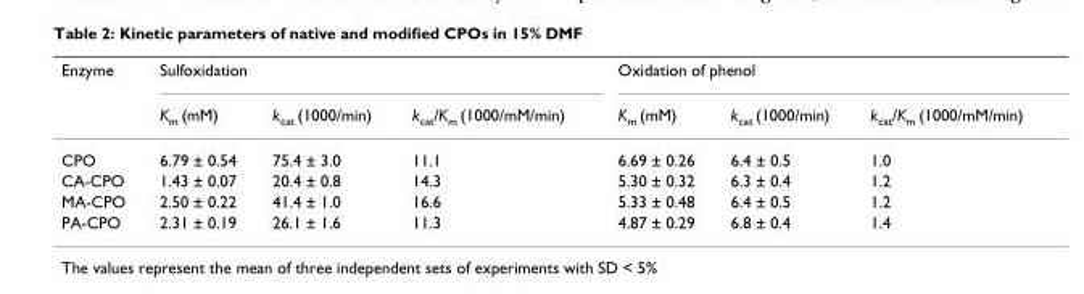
<table><thead><tr><td rowspan="2">Enzyme</td><td colspan="3">Sulfoxidation</td><td colspan="3">Oxidation of phenol</td></tr><tr><td>Km (mM)</td><td>kcat (1000/min)</td><td>kcat/Km (1000/mM/min)</td><td>Km (mM)</td><td>kcat (1000/min)</td><td>kcat/Km (1000/mM/min)</td></tr></thead><tbody><tr><td>CPO</td><td>6.79 ± 0.54</td><td>75.4 ± 3.0</td><td>11.1</td><td>6.69 ± 0.26</td><td>6.4 ± 0.5</td><td>1.0</td></tr><tr><td>CA-CPO</td><td>1.43 ± 0.07</td><td>20.4 ± 0.8</td><td>14.3</td><td>5.30 ± 0.32</td><td>6.3 ± 0.4</td><td>1.2</td></tr><tr><td>MA-CPO</td><td>2.50 ± 0.22</td><td>41.4 ± 1.0</td><td>16.6</td><td>5.33 ± 0.48</td><td>6.4 ± 0.5</td><td>1.2</td></tr><tr><td>PA-CPO</td><td>2.31 ± 0.19</td><td>26.1 ± 1.6</td><td>11.3</td><td>4.87 ± 0.29</td><td>6.8 ± 0.4</td><td>1.4</td></tr></tbody></table>